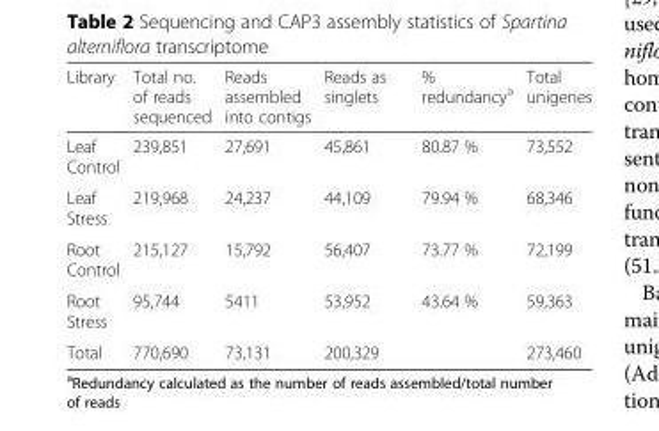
<table><thead><tr><td>Library</td><td>Total no. of reads sequenced</td><td>Reads assembled into contigs</td><td>Reads as singlets</td><td>% redundancy<sup>a</sup></td><td>Total unigenes</td></tr></thead><tbody><tr><td>Leaf Control</td><td>239,851</td><td>27,691</td><td>45,861</td><td>80.87 %</td><td>73,552</td></tr><tr><td>Leaf Stress</td><td>219,968</td><td>24,237</td><td>44,109</td><td>79.94 %</td><td>68,346</td></tr><tr><td>Root Control</td><td>215,127</td><td>15,792</td><td>56,407</td><td>73.77 %</td><td>72,199</td></tr><tr><td>Root Stress</td><td>95,744</td><td>5411</td><td>53,952</td><td>43.64 %</td><td>59,363</td></tr><tr><td>Total</td><td>770,690</td><td>73,131</td><td>200,329</td><td></td><td>273,460</td></tr></tbody></table>